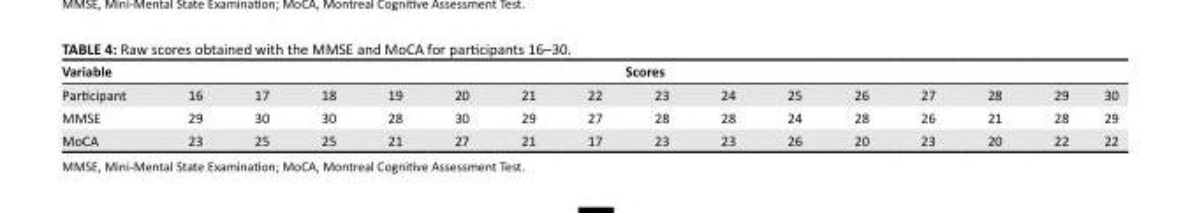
<table><thead><tr><td rowspan="2">Variable Participant</td><td colspan="15">Scores</td></tr><tr><td>16</td><td>17</td><td>18</td><td>19</td><td>20</td><td>21</td><td>22</td><td>23</td><td>24</td><td>25</td><td>26</td><td>27</td><td>28</td><td>29</td><td>30</td></tr></thead><tbody><tr><td>MMSE</td><td>29</td><td>30</td><td>30</td><td>28</td><td>30</td><td>29</td><td>27</td><td>28</td><td>28</td><td>24</td><td>28</td><td>26</td><td>21</td><td>28</td><td>29</td></tr><tr><td>MoCA</td><td>23</td><td>25</td><td>25</td><td>21</td><td>27</td><td>21</td><td>17</td><td>23</td><td>23</td><td>26</td><td>20</td><td>23</td><td>20</td><td>22</td><td>22</td></tr></tbody></table>